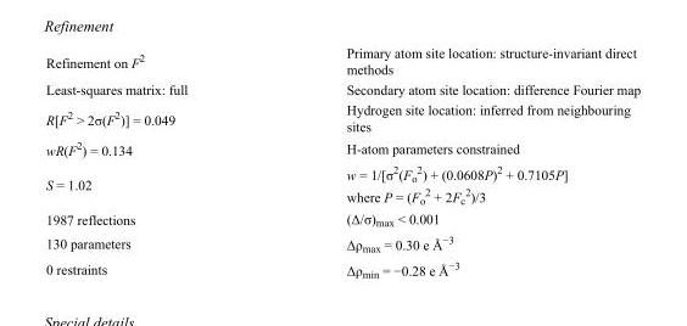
<table><tbody><tr><td>Refinement on F<sup>2</sup></td><td>Primary atom site location: structure-invariant direct methods</td></tr><tr><td>Least-squares matrix: full</td><td>Secondary atom site location: difference Fourier map</td></tr><tr><td>R[F<sup>2</sup> &gt; 2σ(F<sup>2</sup>)] = 0.049</td><td>Hydrogen site location: inferred from neighbouring sites</td></tr><tr><td>wR(F<sup>2</sup>) = 0.134</td><td>H-atom parameters constrained</td></tr><tr><td>S = 1.02</td><td>w = 1/[σ<sup>2</sup>(F<sub>o</sub> <sup>2</sup>) + (0.0608P)<sup>2</sup> + 0.7105P] where P = (F<sub>o</sub> <sup>2</sup> + 2F<sub>c</sub> <sup>2</sup>)/3</td></tr><tr><td>1987 reflections</td><td>(Δ/σ)<sub>max</sub> &lt; 0.001</td></tr><tr><td>130 parameters</td><td>Δρ<sub>max</sub> = 0.30 e Å<sup>−3</sup></td></tr><tr><td>0 restraints</td><td>Δρ<sub>min</sub> = −0.28 e Å<sup>−3</sup></td></tr></tbody></table>